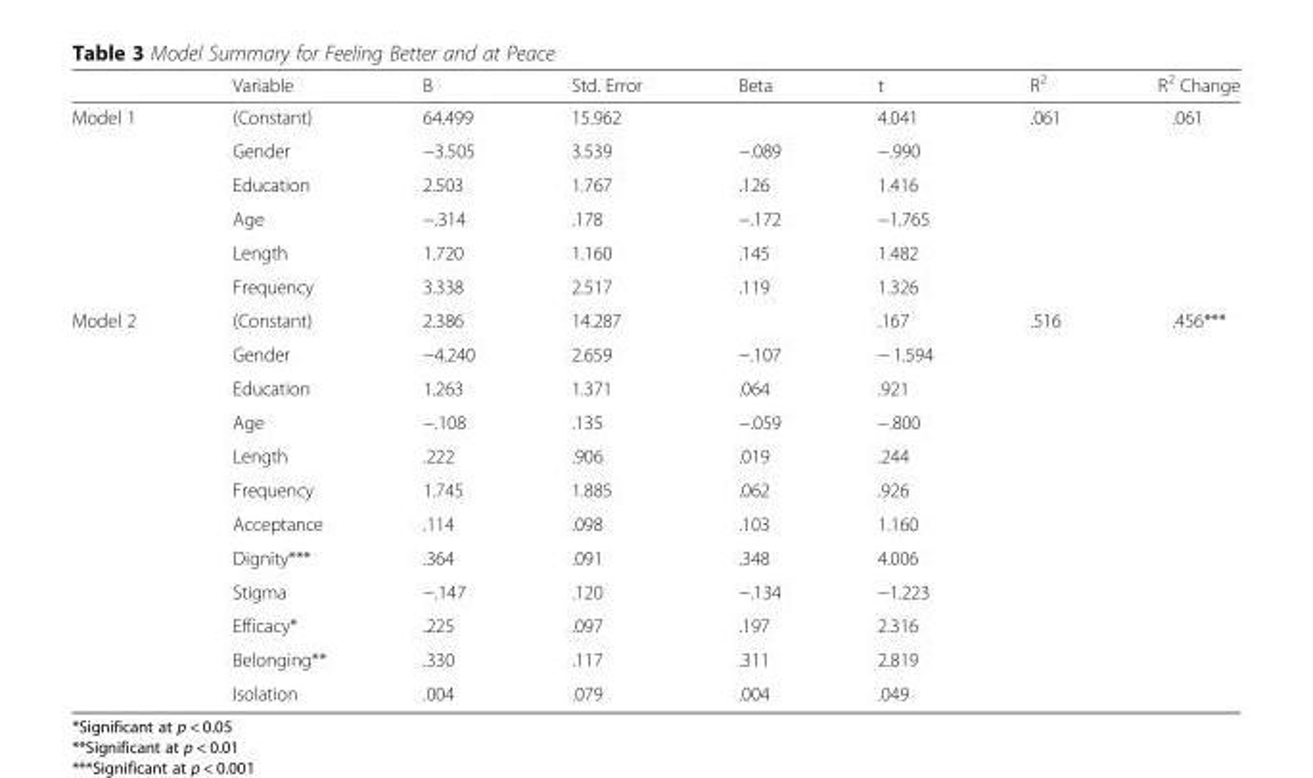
<table><thead><tr><td></td><td>Variable</td><td>B</td><td>Std. Error</td><td>Beta</td><td>t</td><td>R<sup>2</sup></td><td>R<sup>2</sup> Change</td></tr></thead><tbody><tr><td rowspan="6">Model 1</td><td>(Constant)</td><td>64.499</td><td>15.962</td><td></td><td>4.041</td><td>.061</td><td>.061</td></tr><tr><td>Gender</td><td>−3.505</td><td>3.539</td><td>−.089</td><td>−.990</td><td></td><td></td></tr><tr><td>Education</td><td>2.503</td><td>1.767</td><td>.126</td><td>1.416</td><td></td><td></td></tr><tr><td>Age</td><td>−.314</td><td>.178</td><td>−.172</td><td>−1.765</td><td></td><td></td></tr><tr><td>Length</td><td>1.720</td><td>1.160</td><td>.145</td><td>1.482</td><td></td><td></td></tr><tr><td>Frequency</td><td>3.338</td><td>2.517</td><td>.119</td><td>1.326</td><td></td><td></td></tr><tr><td rowspan="12">Model 2</td><td>(Constant)</td><td>2.386</td><td>14.287</td><td></td><td>.167</td><td>.516</td><td>.456***</td></tr><tr><td>Gender</td><td>−4.240</td><td>2.659</td><td>−.107</td><td>− 1.594</td><td></td><td></td></tr><tr><td>Education</td><td>1.263</td><td>1.371</td><td>.064</td><td>.921</td><td></td><td></td></tr><tr><td>Age</td><td>−.108</td><td>.135</td><td>−.059</td><td>−.800</td><td></td><td></td></tr><tr><td>Length</td><td>.222</td><td>.906</td><td>.019</td><td>.244</td><td></td><td></td></tr><tr><td>Frequency</td><td>1.745</td><td>1.885</td><td>.062</td><td>.926</td><td></td><td></td></tr><tr><td>Acceptance</td><td>.114</td><td>.098</td><td>.103</td><td>1.160</td><td></td><td></td></tr><tr><td>Dignity***</td><td>.364</td><td>.091</td><td>.348</td><td>4.006</td><td></td><td></td></tr><tr><td>Stigma</td><td>−.147</td><td>.120</td><td>−.134</td><td>−1.223</td><td></td><td></td></tr><tr><td>Efficacy*</td><td>.225</td><td>.097</td><td>.197</td><td>2.316</td><td></td><td></td></tr><tr><td>Belonging**</td><td>.330</td><td>.117</td><td>.311</td><td>2.819</td><td></td><td></td></tr><tr><td>Isolation</td><td>.004</td><td>.079</td><td>.004</td><td>.049</td><td></td><td></td></tr></tbody></table>